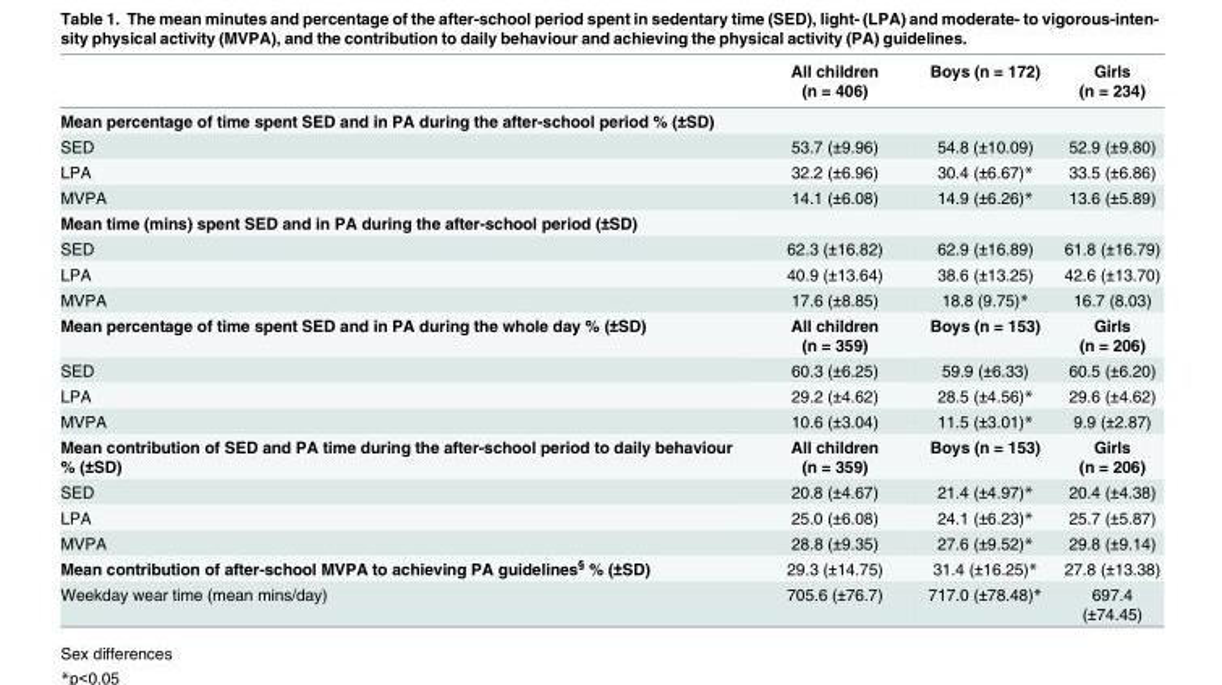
<table><thead><tr><td></td><td>All children (n = 406)</td><td>Boys (n = 172)</td><td>Girls (n = 234)</td></tr></thead><tbody><tr><td colspan="4">Mean percentage of time spent SED and in PA during the after-school period % (±SD)</td></tr><tr><td>SED</td><td>53.7 (±9.96)</td><td>54.8 (±10.09)</td><td>52.9 (±9.80)</td></tr><tr><td>LPA</td><td>32.2 (±6.96)</td><td>30.4 (±6.67)*</td><td>33.5 (±6.86)</td></tr><tr><td>MVPA</td><td>14.1 (±6.08)</td><td>14.9 (±6.26)*</td><td>13.6 (±5.89)</td></tr><tr><td colspan="4">Mean time (mins) spent SED and in PA during the after-school period (±SD)</td></tr><tr><td>SED</td><td>62.3 (±16.82)</td><td>62.9 (±16.89)</td><td>61.8 (±16.79)</td></tr><tr><td>LPA</td><td>40.9 (±13.64)</td><td>38.6 (±13.25)</td><td>42.6 (±13.70)</td></tr><tr><td>MVPA</td><td>17.6 (±8.85)</td><td>18.8 (9.75)*</td><td>16.7 (8.03)</td></tr><tr><td>Mean percentage of time spent SED and in PA during the whole day % (±SD)</td><td>All children (n = 359)</td><td>Boys (n = 153)</td><td>Girls (n = 206)</td></tr><tr><td>SED</td><td>60.3 (±6.25)</td><td>59.9 (±6.33)</td><td>60.5 (±6.20)</td></tr><tr><td>LPA</td><td>29.2 (±4.62)</td><td>28.5 (±4.56)*</td><td>29.6 (±4.62)</td></tr><tr><td>MVPA</td><td>10.6 (±3.04)</td><td>11.5 (±3.01)*</td><td>9.9 (±2.87)</td></tr><tr><td>Mean contribution of SED and PA time during the after-school period to daily behaviour % (±SD)</td><td>All children (n = 359)</td><td>Boys (n = 153)</td><td>Girls (n = 206)</td></tr><tr><td>SED</td><td>20.8 (±4.67)</td><td>21.4 (±4.97)*</td><td>20.4 (±4.38)</td></tr><tr><td>LPA</td><td>25.0 (±6.08)</td><td>24.1 (±6.23)*</td><td>25.7 (±5.87)</td></tr><tr><td>MVPA</td><td>28.8 (±9.35)</td><td>27.6 (±9.52)*</td><td>29.8 (±9.14)</td></tr><tr><td>Mean contribution of after-school MVPA to achieving PA guidelines<sup>§</sup> % (±SD)</td><td>29.3 (±14.75)</td><td>31.4 (±16.25)*</td><td>27.8 (±13.38)</td></tr><tr><td>Weekday wear time (mean mins/day)</td><td>705.6 (±76.7)</td><td>717.0 (±78.48)*</td><td>697.4 (±74.45)</td></tr></tbody></table>